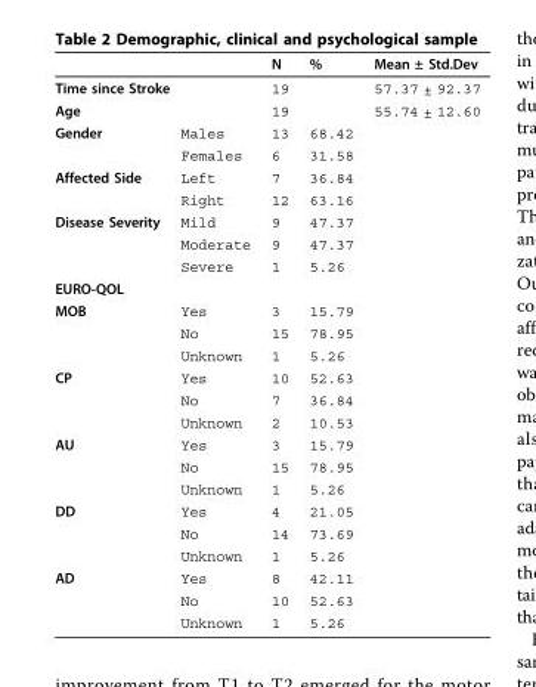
<table><thead><tr><td></td><td></td><td>N</td><td>%</td><td>Mean ± Std.Dev</td></tr></thead><tbody><tr><td colspan="2">Time since Stroke</td><td>19</td><td></td><td>57.37 ± 92.37</td></tr><tr><td colspan="2">Age</td><td>19</td><td></td><td>55.74 ± 12.60</td></tr><tr><td rowspan="2">Gender</td><td>Males</td><td>13</td><td>68.42</td><td></td></tr><tr><td>Females</td><td>6</td><td>31.58</td><td></td></tr><tr><td rowspan="2">Affected Side</td><td>Left</td><td>7</td><td>36.84</td><td></td></tr><tr><td>Right</td><td>12</td><td>63.16</td><td></td></tr><tr><td rowspan="3">Disease Severity</td><td>Mild</td><td>9</td><td>47.37</td><td></td></tr><tr><td>Moderate</td><td>9</td><td>47.37</td><td></td></tr><tr><td>Severe</td><td>1</td><td>5.26</td><td></td></tr><tr><td colspan="5">EURO-QOL</td></tr><tr><td rowspan="3">MOB</td><td>Yes</td><td>3</td><td>15.79</td><td></td></tr><tr><td>No</td><td>15</td><td>78.95</td><td></td></tr><tr><td>Unknown</td><td>1</td><td>5.26</td><td></td></tr><tr><td rowspan="3">CP</td><td>Yes</td><td>10</td><td>52.63</td><td></td></tr><tr><td>No</td><td>7</td><td>36.84</td><td></td></tr><tr><td>Unknown</td><td>2</td><td>10.53</td><td></td></tr><tr><td rowspan="3">AU</td><td>Yes</td><td>3</td><td>15.79</td><td></td></tr><tr><td>No</td><td>15</td><td>78.95</td><td></td></tr><tr><td>Unknown</td><td>1</td><td>5.26</td><td></td></tr><tr><td rowspan="3">DD</td><td>Yes</td><td>4</td><td>21.05</td><td></td></tr><tr><td>No</td><td>14</td><td>73.69</td><td></td></tr><tr><td>Unknown</td><td>1</td><td>5.26</td><td></td></tr><tr><td rowspan="3">AD</td><td>Yes</td><td>8</td><td>42.11</td><td></td></tr><tr><td>No</td><td>10</td><td>52.63</td><td></td></tr><tr><td>Unknown</td><td>1</td><td>5.26</td><td></td></tr></tbody></table>